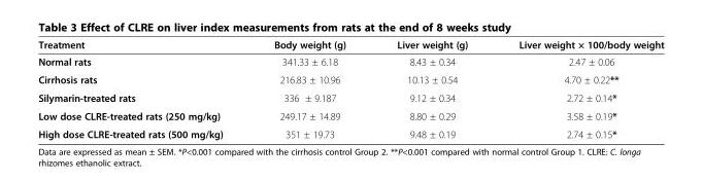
<table><thead><tr><td>Treatment</td><td>Body weight (g)</td><td>Liver weight (g)</td><td>Liver weight × 100/body weight</td></tr></thead><tbody><tr><td>Normal rats</td><td>341.33 ± 6.18</td><td>8.43 ± 0.34</td><td>2.47 ± 0.06</td></tr><tr><td>Cirrhosis rats</td><td>216.83 ± 10.96</td><td>10.13 ± 0.54</td><td>4.70 ± 0.22**</td></tr><tr><td>Silymarin-treated rats</td><td>336 ± 9.187</td><td>9.12 ± 0.34</td><td>2.72 ± 0.14*</td></tr><tr><td>Low dose CLRE-treated rats (250 mg/kg)</td><td>249.17 ± 14.89</td><td>8.80 ± 0.29</td><td>3.58 ± 0.19*</td></tr><tr><td>High dose CLRE-treated rats (500 mg/kg)</td><td>351 ± 19.73</td><td>9.48 ± 0.19</td><td>2.74 ± 0.15*</td></tr></tbody></table>